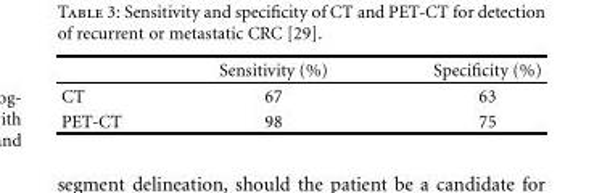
<table><thead><tr><td></td><td>Sensitivity (%)</td><td>Specificity (%)</td></tr></thead><tbody><tr><td>CT</td><td>67</td><td>63</td></tr><tr><td>PET-CT</td><td>98</td><td>75</td></tr></tbody></table>